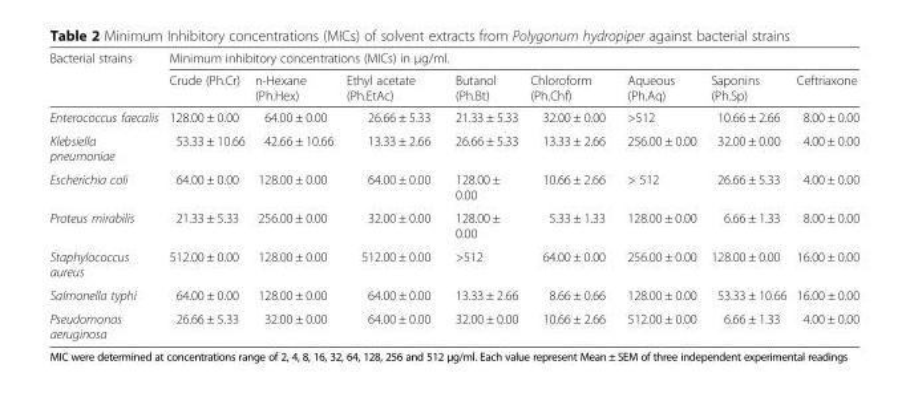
<table><thead><tr><td rowspan="2">Bacterial strains</td><td colspan="8">Minimum inhibitory concentrations (MICs) in μg/ml.</td></tr><tr><td>Crude (Ph.Cr)</td><td>n-Hexane (Ph.Hex)</td><td>Ethyl acetate (Ph.EtAc)</td><td>Butanol (Ph.Bt)</td><td>Chloroform (Ph.Chf)</td><td>Aqueous (Ph.Aq)</td><td>Saponins (Ph.Sp)</td><td>Ceftriaxone</td></tr></thead><tbody><tr><td>Enterococcus faecalis</td><td>128.00 ± 0.00</td><td>64.00 ± 0.00</td><td>26.66 ± 5.33</td><td>21.33 ± 5.33</td><td>32.00 ± 0.00</td><td>&gt;512</td><td>10.66 ± 2.66</td><td>8.00 ± 0.00</td></tr><tr><td>Klebsiella pneumoniae</td><td>53.33 ± 10.66</td><td>42.66 ± 10.66</td><td>13.33 ± 2.66</td><td>26.66 ± 5.33</td><td>13.33 ± 2.66</td><td>256.00 ± 0.00</td><td>32.00 ± 0.00</td><td>4.00 ± 0.00</td></tr><tr><td>Escherichia coli</td><td>64.00 ± 0.00</td><td>128.00 ± 0.00</td><td>64.00 ± 0.00</td><td>128.00 ± 0.00</td><td>10.66 ± 2.66</td><td>&gt; 512</td><td>26.66 ± 5.33</td><td>4.00 ± 0.00</td></tr><tr><td>Proteus mirabilis</td><td>21.33 ± 5.33</td><td>256.00 ± 0.00</td><td>32.00 ± 0.00</td><td>128.00 ± 0.00</td><td>5.33 ± 1.33</td><td>128.00 ± 0.00</td><td>6.66 ± 1.33</td><td>8.00 ± 0.00</td></tr><tr><td>Staphylococcus aureus</td><td>512.00 ± 0.00</td><td>128.00 ± 0.00</td><td>512.00 ± 0.00</td><td>&gt;512</td><td>64.00 ± 0.00</td><td>256.00 ± 0.00</td><td>128.00 ± 0.00</td><td>16.00 ± 0.00</td></tr><tr><td>Salmonella typhi</td><td>64.00 ± 0.00</td><td>128.00 ± 0.00</td><td>64.00 ± 0.00</td><td>13.33 ± 2.66</td><td>8.66 ± 0.66</td><td>128.00 ± 0.00</td><td>53.33 ± 10.66</td><td>16.00 ± 0.00</td></tr><tr><td>Pseudomonas aeruginosa</td><td>26.66 ± 5.33</td><td>32.00 ± 0.00</td><td>64.00 ± 0.00</td><td>32.00 ± 0.00</td><td>10.66 ± 2.66</td><td>512.00 ± 0.00</td><td>6.66 ± 1.33</td><td>4.00 ± 0.00</td></tr></tbody></table>